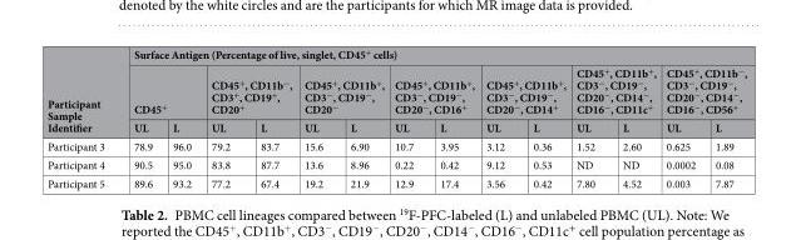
<table><thead><tr><td rowspan="3">Participant Sample Identifier</td><td colspan="14">Surface Antigen (Percentage of live, singlet, CD45<sup>+</sup> cells)</td></tr><tr><td colspan="2">CD45<sup>+</sup></td><td colspan="2">CD45<sup>+</sup>, CD11b<sup>−</sup>, CD3<sup>+</sup>, CD19<sup>+</sup>, CD20<sup>+</sup></td><td colspan="2">CD45<sup>+</sup>, CD11b<sup>+</sup>, CD3<sup>−</sup>, CD19<sup>−</sup>, CD20<sup>−</sup></td><td colspan="2">CD45<sup>+</sup>, CD11b<sup>+</sup>, CD3<sup>−</sup>, CD19<sup>−</sup>, CD20<sup>−</sup>, CD16<sup>+</sup></td><td colspan="2">CD45<sup>+</sup>, CD11b<sup>+</sup>, CD3<sup>−</sup>, CD19<sup>−</sup>, CD20<sup>−</sup>, CD14<sup>+</sup></td><td colspan="2">CD45<sup>+</sup>, CD11b<sup>+</sup>, CD3<sup>−</sup>, CD19<sup>−</sup>, CD20<sup>−</sup>, CD14<sup>−</sup>, CD16<sup>−</sup>, CD11c<sup>+</sup></td><td colspan="2">CD45<sup>+</sup>, CD11b<sup>−</sup>, CD3<sup>−</sup>, CD19<sup>−</sup>, CD20<sup>−</sup>, CD14<sup>−</sup>, CD16<sup>−</sup>, CD56<sup>+</sup></td></tr><tr><td>UL</td><td>L</td><td>UL</td><td>L</td><td>UL</td><td>L</td><td>UL</td><td>L</td><td>UL</td><td>L</td><td>UL</td><td>L</td><td>UL</td><td>L</td></tr></thead><tbody><tr><td>Participant 3</td><td>78.9</td><td>96.0</td><td>79.2</td><td>83.7</td><td>15.6</td><td>6.90</td><td>10.7</td><td>3.95</td><td>3.12</td><td>0.36</td><td>1.52</td><td>2.60</td><td>0.625</td><td>1.89</td></tr><tr><td>Participant 4</td><td>90.5</td><td>95.0</td><td>83.8</td><td>87.7</td><td>13.6</td><td>8.96</td><td>0.22</td><td>0.42</td><td>9.12</td><td>0.53</td><td>ND</td><td>ND</td><td>0.0002</td><td>0.08</td></tr><tr><td>Participant 5</td><td>89.6</td><td>93.2</td><td>77.2</td><td>67.4</td><td>19.2</td><td>21.9</td><td>12.9</td><td>17.4</td><td>3.56</td><td>0.42</td><td>7.80</td><td>4.52</td><td>0.003</td><td>7.87</td></tr></tbody></table>